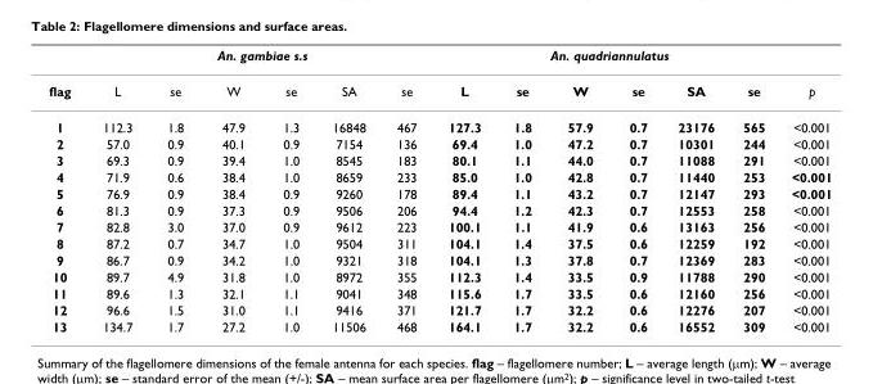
<table><thead><tr><td rowspan="2">flag</td><td colspan="6">An. gambiae s.s</td><td colspan="6">An. quadriannulatus</td><td rowspan="2">p</td></tr><tr><td>L</td><td>se</td><td>W</td><td>se</td><td>SA</td><td>se</td><td>L</td><td>se</td><td>W</td><td>se</td><td>SA</td><td>se</td></tr></thead><tbody><tr><td>1</td><td>112.3</td><td>1.8</td><td>47.9</td><td>1.3</td><td>16848</td><td>467</td><td>127.3</td><td>1.8</td><td>57.9</td><td>0.7</td><td>23176</td><td>565</td><td>&lt;0.001</td></tr><tr><td>2</td><td>57.0</td><td>0.9</td><td>40.1</td><td>0.9</td><td>7154</td><td>136</td><td>69.4</td><td>1.0</td><td>47.2</td><td>0.7</td><td>10301</td><td>244</td><td>&lt;0.001</td></tr><tr><td>3</td><td>69.3</td><td>0.9</td><td>39.4</td><td>1.0</td><td>8545</td><td>183</td><td>80.1</td><td>1.1</td><td>44.0</td><td>0.7</td><td>11088</td><td>291</td><td>&lt;0.001</td></tr><tr><td>4</td><td>71.9</td><td>0.6</td><td>38.4</td><td>1.0</td><td>8659</td><td>233</td><td>85.0</td><td>1.0</td><td>42.8</td><td>0.7</td><td>11440</td><td>253</td><td>&lt;0.001</td></tr><tr><td>5</td><td>76.9</td><td>0.9</td><td>38.4</td><td>0.9</td><td>9260</td><td>178</td><td>89.4</td><td>1.1</td><td>43.2</td><td>0.7</td><td>12147</td><td>293</td><td>&lt;0.001</td></tr><tr><td>6</td><td>81.3</td><td>0.9</td><td>37.3</td><td>0.9</td><td>9506</td><td>206</td><td>94.4</td><td>1.2</td><td>42.3</td><td>0.7</td><td>12553</td><td>258</td><td>&lt;0.001</td></tr><tr><td>7</td><td>82.8</td><td>3.0</td><td>37.0</td><td>0.9</td><td>9612</td><td>223</td><td>100.1</td><td>1.1</td><td>41.9</td><td>0.6</td><td>13163</td><td>256</td><td>&lt;0.001</td></tr><tr><td>8</td><td>87.2</td><td>0.7</td><td>34.7</td><td>1.0</td><td>9504</td><td>311</td><td>104.1</td><td>1.4</td><td>37.5</td><td>0.6</td><td>12259</td><td>192</td><td>&lt;0.001</td></tr><tr><td>9</td><td>86.7</td><td>0.9</td><td>34.2</td><td>1.0</td><td>9321</td><td>318</td><td>104.1</td><td>1.3</td><td>37.8</td><td>0.7</td><td>12369</td><td>283</td><td>&lt;0.001</td></tr><tr><td>10</td><td>89.7</td><td>4.9</td><td>31.8</td><td>1.0</td><td>8972</td><td>355</td><td>112.3</td><td>1.4</td><td>33.5</td><td>0.9</td><td>11788</td><td>290</td><td>&lt;0.001</td></tr><tr><td>11</td><td>89.6</td><td>1.3</td><td>32.1</td><td>1.1</td><td>9041</td><td>348</td><td>115.6</td><td>1.7</td><td>33.5</td><td>0.6</td><td>12160</td><td>256</td><td>&lt;0.001</td></tr><tr><td>12</td><td>96.6</td><td>1.5</td><td>31.0</td><td>1.1</td><td>9416</td><td>371</td><td>121.7</td><td>1.7</td><td>32.2</td><td>0.6</td><td>12276</td><td>207</td><td>&lt;0.001</td></tr><tr><td>13</td><td>134.7</td><td>1.7</td><td>27.2</td><td>1.0</td><td>11506</td><td>468</td><td>164.1</td><td>1.7</td><td>32.2</td><td>0.6</td><td>16552</td><td>309</td><td>&lt;0.001</td></tr></tbody></table>